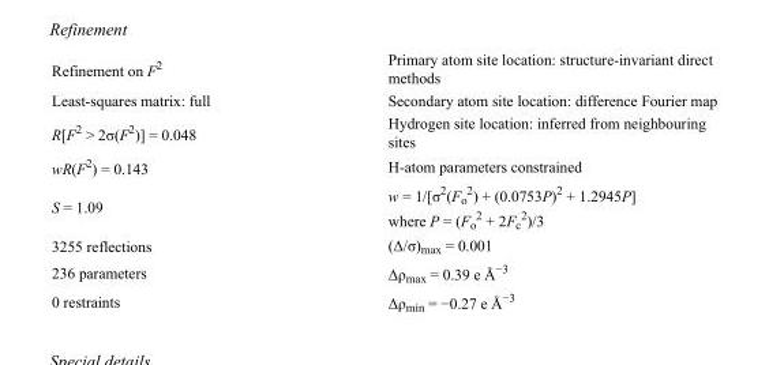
<table><tbody><tr><td>Refinement on F<sup>2</sup></td><td>Primary atom site location: structure-invariant direct methods</td></tr><tr><td>Least-squares matrix: full</td><td>Secondary atom site location: difference Fourier map</td></tr><tr><td>R[F<sup>2</sup> &gt; 2σ(F<sup>2</sup>)] = 0.048</td><td>Hydrogen site location: inferred from neighbouring sites</td></tr><tr><td>wR(F<sup>2</sup>) = 0.143</td><td>H-atom parameters constrained</td></tr><tr><td>S = 1.09</td><td>w = 1/[σ<sup>2</sup>(F<sub>o</sub> <sup>2</sup>) + (0.0753P)<sup>2</sup> + 1.2945P] where P = (F<sub>o</sub> <sup>2</sup> + 2F<sub>c</sub> <sup>2</sup>)/3</td></tr><tr><td>3255 reflections</td><td>(Δ/σ)<sub>max</sub> = 0.001</td></tr><tr><td>236 parameters</td><td>Δρ<sub>max</sub> = 0.39 e Å<sup>−3</sup></td></tr><tr><td>0 restraints</td><td>Δρ<sub>min</sub> = −0.27 e Å<sup>−3</sup></td></tr></tbody></table>